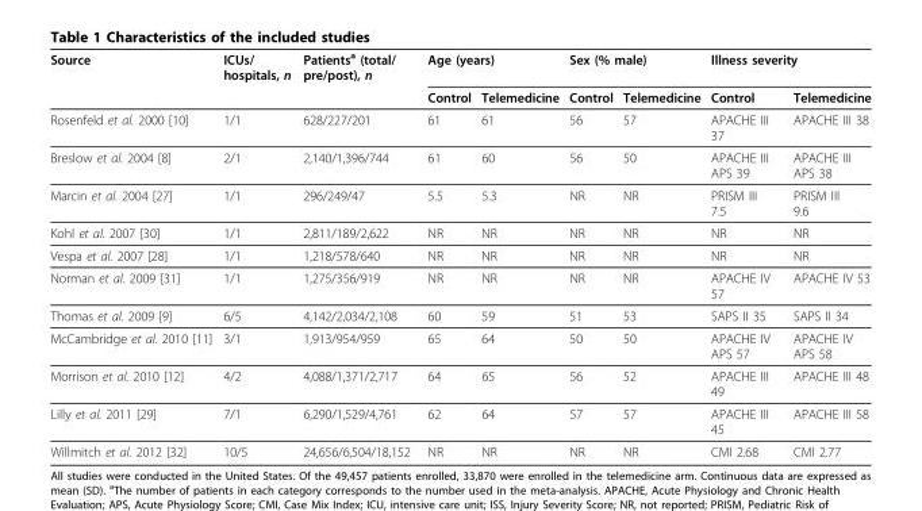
<table><thead><tr><td rowspan="2">Source</td><td rowspan="2">ICUs/ hospitals, n</td><td rowspan="2">Patients<sup>a</sup> (total/ pre/post), n</td><td colspan="2">Age (years)</td><td colspan="2">Sex (% male)</td><td colspan="2">Illness severity</td></tr><tr><td>Control</td><td>Telemedicine</td><td>Control</td><td>Telemedicine</td><td>Control</td><td>Telemedicine</td></tr></thead><tbody><tr><td>Rosenfeld et al. 2000 [10]</td><td>1/1</td><td>628/227/201</td><td>61</td><td>61</td><td>56</td><td>57</td><td>APACHE III 37</td><td>APACHE III 38</td></tr><tr><td>Breslow et al. 2004 [8]</td><td>2/1</td><td>2,140/1,396/744</td><td>61</td><td>60</td><td>56</td><td>50</td><td>APACHE III APS 39</td><td>APACHE III APS 38</td></tr><tr><td>Marcin et al. 2004 [27]</td><td>1/1</td><td>296/249/47</td><td>5.5</td><td>5.3</td><td>NR</td><td>NR</td><td>PRISM III 7.5</td><td>PRISM III 9.6</td></tr><tr><td>Kohl et al. 2007 [30]</td><td>1/1</td><td>2,811/189/2,622</td><td>NR</td><td>NR</td><td>NR</td><td>NR</td><td>NR</td><td>NR</td></tr><tr><td>Vespa et al. 2007 [28]</td><td>1/1</td><td>1,218/578/640</td><td>NR</td><td>NR</td><td>NR</td><td>NR</td><td>NR</td><td>NR</td></tr><tr><td>Norman et al. 2009 [31]</td><td>1/1</td><td>1,275/356/919</td><td>NR</td><td>NR</td><td>NR</td><td>NR</td><td>APACHE IV 57</td><td>APACHE IV 53</td></tr><tr><td>Thomas et al. 2009 [9]</td><td>6/5</td><td>4,142/2,034/2,108</td><td>60</td><td>59</td><td>51</td><td>53</td><td>SAPS II 35</td><td>SAPS II 34</td></tr><tr><td>McCambridge et al. 2010 [11]</td><td>3/1</td><td>1,913/954/959</td><td>65</td><td>64</td><td>50</td><td>50</td><td>APACHE IV APS 57</td><td>APACHE IV APS 58</td></tr><tr><td>Morrison et al. 2010 [12]</td><td>4/2</td><td>4,088/1,371/2,717</td><td>64</td><td>65</td><td>56</td><td>52</td><td>APACHE III 49</td><td>APACHE III 48</td></tr><tr><td>Lilly et al. 2011 [29]</td><td>7/1</td><td>6,290/1,529/4,761</td><td>62</td><td>64</td><td>57</td><td>57</td><td>APACHE III 45</td><td>APACHE III 58</td></tr><tr><td>Willmitch et al. 2012 [32]</td><td>10/5</td><td>24,656/6,504/18,152</td><td>NR</td><td>NR</td><td>NR</td><td>NR</td><td>CMI 2.68</td><td>CMI 2.77</td></tr></tbody></table>